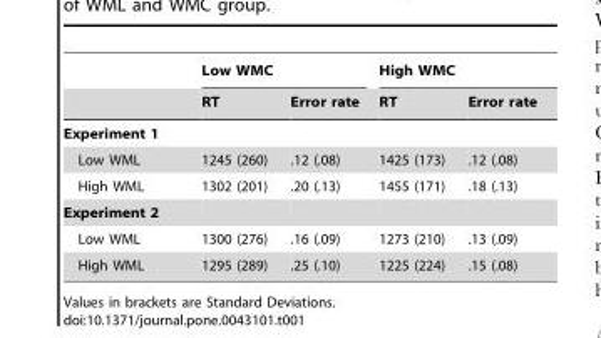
<table><thead><tr><td rowspan="2"></td><td colspan="2">Low WMC</td><td colspan="2">High WMC</td></tr><tr><td>RT</td><td>Error rate</td><td>RT</td><td>Error rate</td></tr></thead><tbody><tr><td colspan="5">Experiment 1</td></tr><tr><td>Low WML</td><td>1245 (260)</td><td>.12 (.08)</td><td>1425 (173)</td><td>.12 (.08)</td></tr><tr><td>High WML</td><td>1302 (201)</td><td>.20 (.13)</td><td>1455 (171)</td><td>.18 (.13)</td></tr><tr><td colspan="5">Experiment 2</td></tr><tr><td>Low WML</td><td>1300 (276)</td><td>.16 (.09)</td><td>1273 (210)</td><td>.13 (.09)</td></tr><tr><td>High WML</td><td>1295 (289)</td><td>.25 (.10)</td><td>1225 (224)</td><td>.15 (.08)</td></tr></tbody></table>